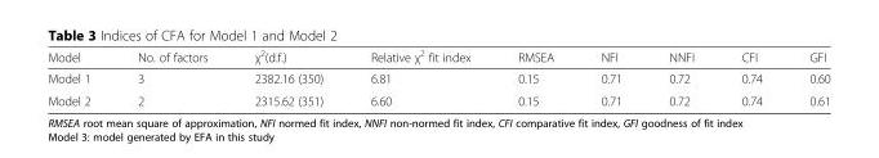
<table><thead><tr><td>Model</td><td>No. of factors</td><td>χ<sup>2</sup>(d.f.)</td><td>Relative χ<sup>2</sup> fit index</td><td>RMSEA</td><td>NFI</td><td>NNFI</td><td>CFI</td><td>GFI</td></tr></thead><tbody><tr><td>Model 1</td><td>3</td><td>2382.16 (350)</td><td>6.81</td><td>0.15</td><td>0.71</td><td>0.72</td><td>0.74</td><td>0.60</td></tr><tr><td>Model 2</td><td>2</td><td>2315.62 (351)</td><td>6.60</td><td>0.15</td><td>0.71</td><td>0.72</td><td>0.74</td><td>0.61</td></tr></tbody></table>